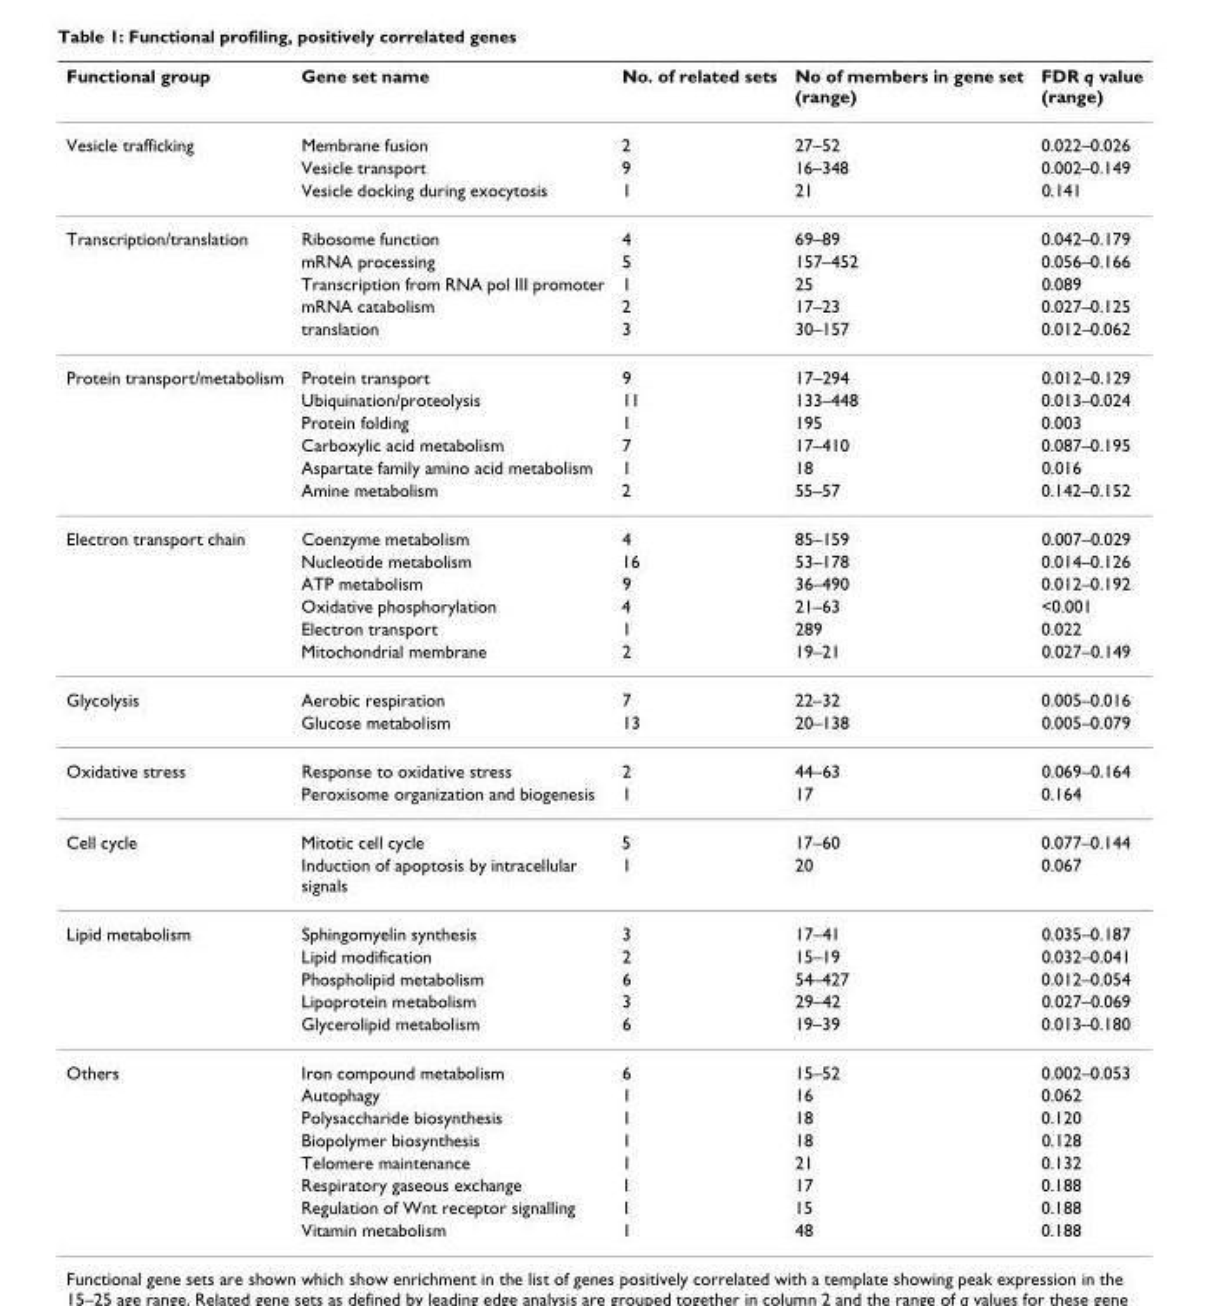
<table><thead><tr><td>Functional group</td><td>Gene set name</td><td>No. of related sets</td><td>No of members in gene set (range)</td><td>FDR q value (range)</td></tr></thead><tbody><tr><td rowspan="3">Vesicle trafficking</td><td>Membrane fusion</td><td>2</td><td>27–52</td><td>0.022–0.026</td></tr><tr><td>Vesicle transport</td><td>9</td><td>16–348</td><td>0.002–0.149</td></tr><tr><td>Vesicle docking during exocytosis</td><td>1</td><td>21</td><td>0.141</td></tr><tr><td rowspan="5">Transcription/translation</td><td>Ribosome function</td><td>4</td><td>69–89</td><td>0.042–0.179</td></tr><tr><td>mRNA processing</td><td>5</td><td>157–452</td><td>0.056–0.166</td></tr><tr><td>Transcription from RNA pol III promoter</td><td>1</td><td>25</td><td>0.089</td></tr><tr><td>mRNA catabolism</td><td>2</td><td>17–23</td><td>0.027–0.125</td></tr><tr><td>translation</td><td>3</td><td>30–157</td><td>0.012–0.062</td></tr><tr><td rowspan="6">Protein transport/metabolism</td><td>Protein transport</td><td>9</td><td>17–294</td><td>0.012–0.129</td></tr><tr><td>Ubiquination/proteolysis</td><td>11</td><td>133–448</td><td>0.013–0.024</td></tr><tr><td>Protein folding</td><td>1</td><td>195</td><td>0.003</td></tr><tr><td>Carboxylic acid metabolism</td><td>7</td><td>17–410</td><td>0.087–0.195</td></tr><tr><td>Aspartate family amino acid metabolism</td><td>1</td><td>18</td><td>0.016</td></tr><tr><td>Amine metabolism</td><td>2</td><td>55–57</td><td>0.142–0.152</td></tr><tr><td rowspan="6">Electron transport chain</td><td>Coenzyme metabolism</td><td>4</td><td>85–159</td><td>0.007–0.029</td></tr><tr><td>Nucleotide metabolism</td><td>16</td><td>53–178</td><td>0.014–0.126</td></tr><tr><td>ATP metabolism</td><td>9</td><td>36–490</td><td>0.012–0.192</td></tr><tr><td>Oxidative phosphorylation</td><td>4</td><td>21–63</td><td>&lt;0.001</td></tr><tr><td>Electron transport</td><td>1</td><td>289</td><td>0.022</td></tr><tr><td>Mitochondrial membrane</td><td>2</td><td>19–21</td><td>0.027–0.149</td></tr><tr><td rowspan="2">Glycolysis</td><td>Aerobic respiration</td><td>7</td><td>22–32</td><td>0.005–0.016</td></tr><tr><td>Glucose metabolism</td><td>13</td><td>20–138</td><td>0.005–0.079</td></tr><tr><td rowspan="2">Oxidative stress</td><td>Response to oxidative stress</td><td>2</td><td>44–63</td><td>0.069–0.164</td></tr><tr><td>Peroxisome organization and biogenesis</td><td>1</td><td>17</td><td>0.164</td></tr><tr><td rowspan="2">Cell cycle</td><td>Mitotic cell cycle</td><td>5</td><td>17–60</td><td>0.077–0.144</td></tr><tr><td>Induction of apoptosis by intracellular signals</td><td>1</td><td>20</td><td>0.067</td></tr><tr><td rowspan="5">Lipid metabolism</td><td>Sphingomyelin synthesis</td><td>3</td><td>17–41</td><td>0.035–0.187</td></tr><tr><td>Lipid modification</td><td>2</td><td>15–19</td><td>0.032–0.041</td></tr><tr><td>Phospholipid metabolism</td><td>6</td><td>54–427</td><td>0.012–0.054</td></tr><tr><td>Lipoprotein metabolism</td><td>3</td><td>29–42</td><td>0.027–0.069</td></tr><tr><td>Glycerolipid metabolism</td><td>6</td><td>19–39</td><td>0.013–0.180</td></tr><tr><td rowspan="8">Others</td><td>Iron compound metabolism</td><td>6</td><td>15–52</td><td>0.002–0.053</td></tr><tr><td>Autophagy</td><td>1</td><td>16</td><td>0.062</td></tr><tr><td>Polysaccharide biosynthesis</td><td>1</td><td>18</td><td>0.120</td></tr><tr><td>Biopolymer biosynthesis</td><td>1</td><td>18</td><td>0.128</td></tr><tr><td>Telomere maintenance</td><td>1</td><td>21</td><td>0.132</td></tr><tr><td>Respiratory gaseous exchange</td><td>1</td><td>17</td><td>0.188</td></tr><tr><td>Regulation of Wnt receptor signalling</td><td>1</td><td>15</td><td>0.188</td></tr><tr><td>Vitamin metabolism</td><td>1</td><td>48</td><td>0.188</td></tr></tbody></table>